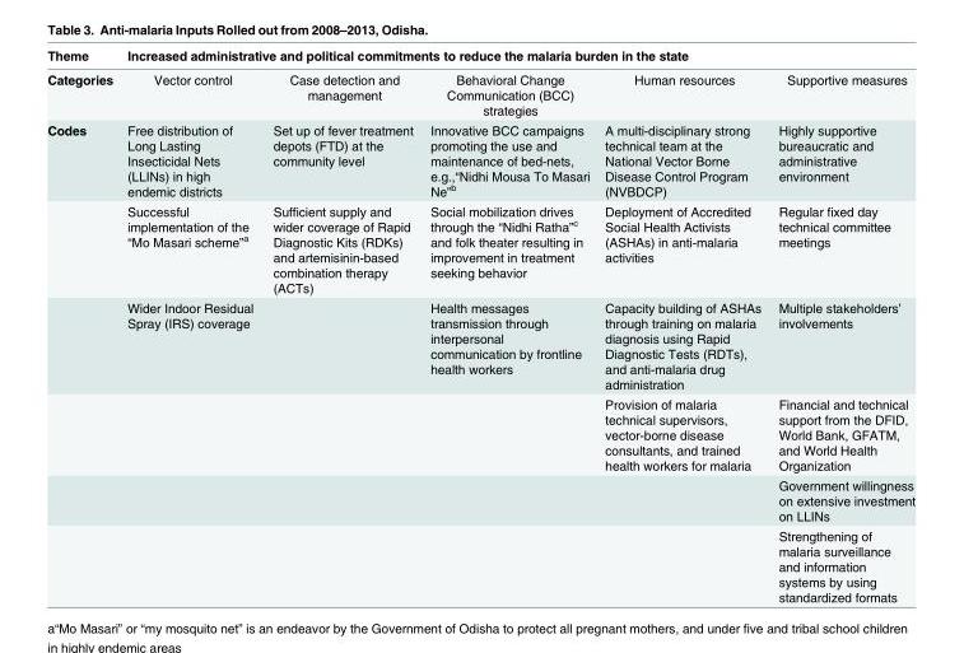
<table><thead><tr><td rowspan="2">Theme Categories</td><td colspan="5">Increased administrative and political commitments to reduce the malaria burden in the state</td></tr><tr><td>Vector control</td><td>Case detection and management</td><td>Behavioral Change Communication (BCC) strategies</td><td>Human resources</td><td>Supportive measures</td></tr></thead><tbody><tr><td rowspan="6">Codes</td><td>Free distribution of Long Lasting Insecticidal Nets (LLINs) in high endemic districts</td><td>Set up of fever treatment depots (FTD) at the community level</td><td>Innovative BCC campaigns promoting the use and maintenance of bed-nets, e.g.,“Nidhi Mousa To Masari Ne”<sup>b</sup></td><td>A multi-disciplinary strong technical team at the National Vector Borne Disease Control Program (NVBDCP)</td><td>Highly supportive bureaucratic and administrative environment</td></tr><tr><td>Successful implementation of the “Mo Masari scheme”<sup>a</sup></td><td>Sufficient supply and wider coverage of Rapid Diagnostic Kits (RDKs) and artemisinin-based combination therapy (ACTs)</td><td>Social mobilization drives through the “Nidhi Ratha”<sup>c</sup> and folk theater resulting in improvement in treatment seeking behavior</td><td>Deployment of Accredited Social Health Activists (ASHAs) in anti-malaria activities</td><td>Regular fixed day technical committee meetings</td></tr><tr><td>Wider Indoor Residual Spray (IRS) coverage</td><td></td><td>Health messages transmission through interpersonal communication by frontline health workers</td><td>Capacity building of ASHAs through training on malaria diagnosis using Rapid Diagnostic Tests (RDTs), and anti-malaria drug administration</td><td>Multiple stakeholders’ involvements</td></tr><tr><td></td><td></td><td></td><td>Provision of malaria technical supervisors, vector-borne disease consultants, and trained health workers for malaria</td><td>Financial and technical support from the DFID, World Bank, GFATM, and World Health Organization</td></tr><tr><td></td><td></td><td></td><td></td><td>Government willingness on extensive investment on LLINs</td></tr><tr><td></td><td></td><td></td><td></td><td>Strengthening of malaria surveillance and information systems by using standardized formats</td></tr></tbody></table>